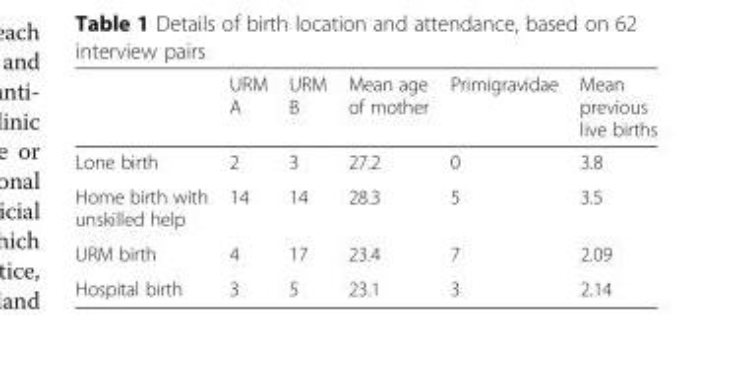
<table><thead><tr><td></td><td>URM A</td><td>URM B</td><td>Mean age of mother</td><td>Primigravidae</td><td>Mean previous live births</td></tr></thead><tbody><tr><td>Lone birth</td><td>2</td><td>3</td><td>27.2</td><td>0</td><td>3.8</td></tr><tr><td>Home birth with unskilled help</td><td>14</td><td>14</td><td>28.3</td><td>5</td><td>3.5</td></tr><tr><td>URM birth</td><td>4</td><td>17</td><td>23.4</td><td>7</td><td>2.09</td></tr><tr><td>Hospital birth</td><td>3</td><td>5</td><td>23.1</td><td>3</td><td>2.14</td></tr></tbody></table>